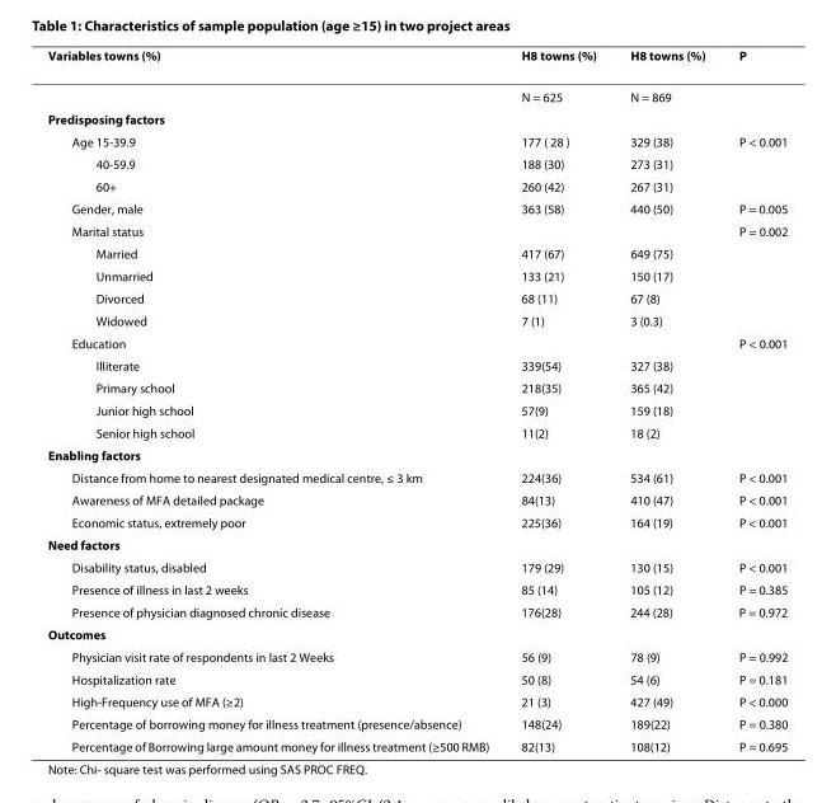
<table><thead><tr><td>Variables towns (%)</td><td>H8 towns (%)</td><td>H8 towns (%)</td><td>P</td></tr></thead><tbody><tr><td></td><td>N = 625</td><td>N = 869</td><td></td></tr><tr><td colspan="4">Predisposing factors</td></tr><tr><td>Age 15-39.9</td><td>177 ( 28 )</td><td>329 (38)</td><td>P &lt; 0.001</td></tr><tr><td>40-59.9</td><td>188 (30)</td><td>273 (31)</td><td></td></tr><tr><td>60+</td><td>260 (42)</td><td>267 (31)</td><td></td></tr><tr><td>Gender, male</td><td>363 (58)</td><td>440 (50)</td><td>P = 0.005</td></tr><tr><td>Marital status</td><td></td><td></td><td>P = 0.002</td></tr><tr><td>Married</td><td>417 (67)</td><td>649 (75)</td><td></td></tr><tr><td>Unmarried</td><td>133 (21)</td><td>150 (17)</td><td></td></tr><tr><td>Divorced</td><td>68 (11)</td><td>67 (8)</td><td></td></tr><tr><td>Widowed</td><td>7 (1)</td><td>3 (0.3)</td><td></td></tr><tr><td>Education</td><td></td><td></td><td>P &lt; 0.001</td></tr><tr><td>Illiterate</td><td>339(54)</td><td>327 (38)</td><td></td></tr><tr><td>Primary school</td><td>218(35)</td><td>365 (42)</td><td></td></tr><tr><td>Junior high school</td><td>57(9)</td><td>159 (18)</td><td></td></tr><tr><td>Senior high school</td><td>11(2)</td><td>18 (2)</td><td></td></tr><tr><td colspan="4">Enabling factors</td></tr><tr><td>Distance from home to nearest designated medical centre, ≤ 3 km</td><td>224(36)</td><td>534 (61)</td><td>P &lt; 0.001</td></tr><tr><td>Awareness of MFA detailed package</td><td>84(13)</td><td>410 (47)</td><td>P &lt; 0.001</td></tr><tr><td>Economic status, extremely poor</td><td>225(36)</td><td>164 (19)</td><td>P &lt; 0.001</td></tr><tr><td colspan="4">Need factors</td></tr><tr><td>Disability status, disabled</td><td>179 (29)</td><td>130 (15)</td><td>P &lt; 0.001</td></tr><tr><td>Presence of illness in last 2 weeks</td><td>85 (14)</td><td>105 (12)</td><td>P = 0.385</td></tr><tr><td>Presence of physician diagnosed chronic disease</td><td>176(28)</td><td>244 (28)</td><td>P = 0.972</td></tr><tr><td colspan="4">Outcomes</td></tr><tr><td>Physician visit rate of respondents in last 2 Weeks</td><td>56 (9)</td><td>78 (9)</td><td>P = 0.992</td></tr><tr><td>Hospitalization rate</td><td>50 (8)</td><td>54 (6)</td><td>P = 0.181</td></tr><tr><td>High-Frequency use of MFA (≥2)</td><td>21 (3)</td><td>427 (49)</td><td>P &lt; 0.000</td></tr><tr><td>Percentage of borrowing money for illness treatment (presence/absence)</td><td>148(24)</td><td>189(22)</td><td>P = 0.380</td></tr><tr><td>Percentage of Borrowing large amount money for illness treatment (≥500 RMB)</td><td>82(13)</td><td>108(12)</td><td>P = 0.695</td></tr></tbody></table>